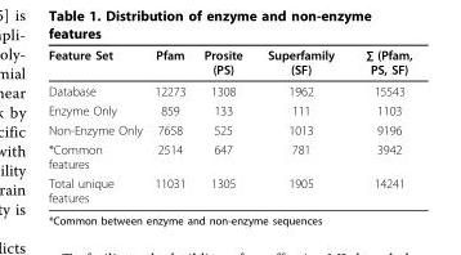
<table><thead><tr><td>Feature Set</td><td>Pfam</td><td>Prosite (PS)</td><td>Superfamily (SF)</td><td>∑ (Pfam, PS, SF)</td></tr></thead><tbody><tr><td>Database</td><td>12273</td><td>1308</td><td>1962</td><td>15543</td></tr><tr><td>Enzyme Only</td><td>859</td><td>133</td><td>111</td><td>1103</td></tr><tr><td>Non-Enzyme Only</td><td>7658</td><td>525</td><td>1013</td><td>9196</td></tr><tr><td>*Common features</td><td>2514</td><td>647</td><td>781</td><td>3942</td></tr><tr><td>Total unique features</td><td>11031</td><td>1305</td><td>1905</td><td>14241</td></tr></tbody></table>